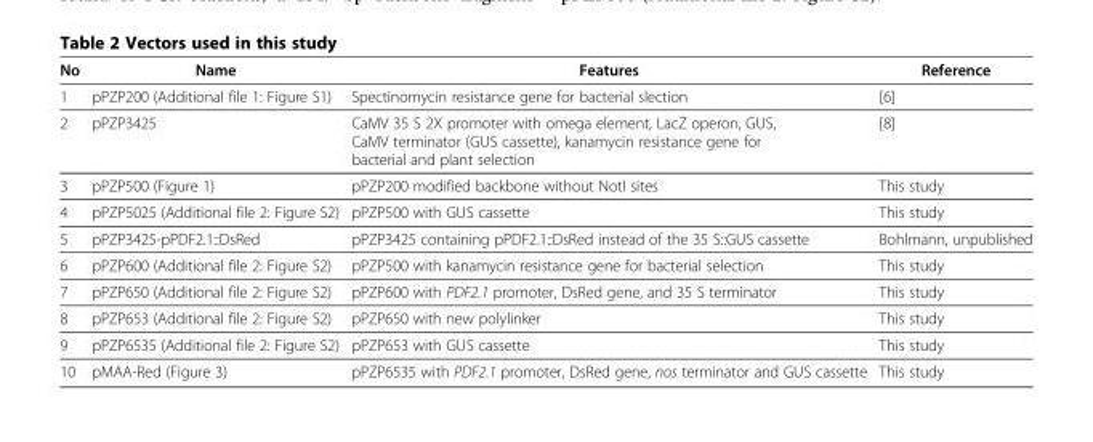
<table><thead><tr><td>No</td><td>Name</td><td>Features</td><td>Reference</td></tr></thead><tbody><tr><td>1</td><td>pPZP200 (Additional file 1: Figure S1)</td><td>Spectinomycin resistance gene for bacterial slection</td><td>[6]</td></tr><tr><td>2</td><td>pPZP3425</td><td>CaMV 35 S 2X promoter with omega element, LacZ operon, GUS, CaMV terminator (GUS cassette), kanamycin resistance gene for bacterial and plant selection</td><td>[8]</td></tr><tr><td>3</td><td>pPZP500 (Figure 1)</td><td>pPZP200 modified backbone without NotI sites</td><td>This study</td></tr><tr><td>4</td><td>pPZP5025 (Additional file 2: Figure S2)</td><td>pPZP500 with GUS cassette</td><td>This study</td></tr><tr><td>5</td><td>pPZP3425-pPDF2.1::DsRed</td><td>pPZP3425 containing pPDF2.1::DsRed instead of the 35 S::GUS cassette</td><td>Bohlmann, unpublished</td></tr><tr><td>6</td><td>pPZP600 (Additional file 2: Figure S2)</td><td>pPZP500 with kanamycin resistance gene for bacterial selection</td><td>This study</td></tr><tr><td>7</td><td>pPZP650 (Additional file 2: Figure S2)</td><td>pPZP600 with PDF2.1 promoter, DsRed gene, and 35 S terminator</td><td>This study</td></tr><tr><td>8</td><td>pPZP653 (Additional file 2: Figure S2)</td><td>pPZP650 with new polylinker</td><td>This study</td></tr><tr><td>9</td><td>pPZP6535 (Additional file 2: Figure S2)</td><td>pPZP653 with GUS cassette</td><td>This study</td></tr><tr><td>10</td><td>pMAA-Red (Figure 3)</td><td>pPZP6535 with PDF2.1 promoter, DsRed gene, nos terminator and GUS cassette</td><td>This study</td></tr></tbody></table>